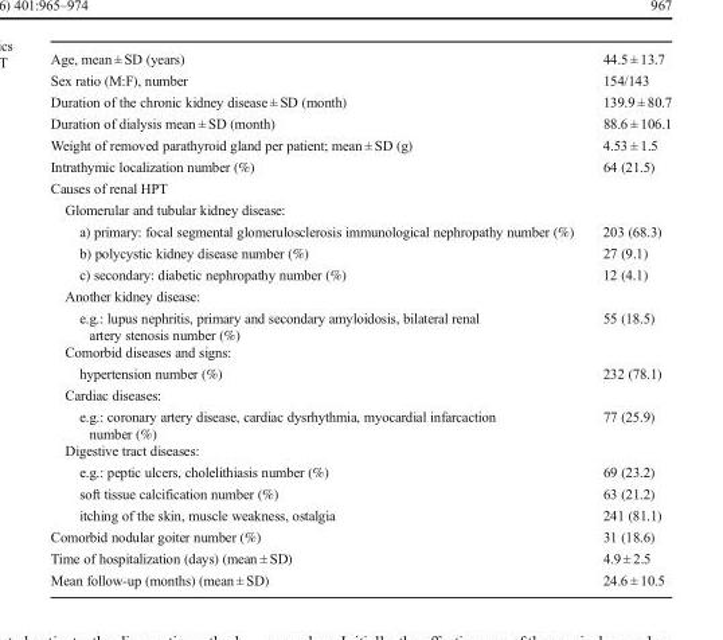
<table><tbody><tr><td>Age, mean ± SD (years)</td><td>44.5 ± 13.7</td></tr><tr><td>Sex ratio (M:F), number</td><td>154/143</td></tr><tr><td>Duration of the chronic kidney disease ± SD (month)</td><td>139.9 ± 80.7</td></tr><tr><td>Duration of dialysis mean ± SD (month)</td><td>88.6 ± 106.1</td></tr><tr><td>Weight of removed parathyroid gland per patient; mean ± SD (g)</td><td>4.53 ± 1.5</td></tr><tr><td>Intrathymic localization number (%)</td><td>64 (21.5)</td></tr><tr><td colspan="2">Causes of renal HPT</td></tr><tr><td colspan="2">Glomerular and tubular kidney disease:</td></tr><tr><td>a) primary: focal segmental glomerulosclerosis immunological nephropathy number (%)</td><td>203 (68.3)</td></tr><tr><td>b) polycystic kidney disease number (%)</td><td>27 (9.1)</td></tr><tr><td>c) secondary: diabetic nephropathy number (%)</td><td>12 (4.1)</td></tr><tr><td colspan="2">Another kidney disease:</td></tr><tr><td>e.g.: lupus nephritis, primary and secondary amyloidosis, bilateral renal artery stenosis number (%)</td><td>55 (18.5)</td></tr><tr><td colspan="2">Comorbid diseases and signs:</td></tr><tr><td>hypertension number (%)</td><td>232 (78.1)</td></tr><tr><td colspan="2">Cardiac diseases:</td></tr><tr><td>e.g.: coronary artery disease, cardiac dysrhythmia, myocardial infarcaction number (%)</td><td>77 (25.9)</td></tr><tr><td colspan="2">Digestive tract diseases:</td></tr><tr><td>e.g.: peptic ulcers, cholelithiasis number (%)</td><td>69 (23.2)</td></tr><tr><td>soft tissue calcification number (%)</td><td>63 (21.2)</td></tr><tr><td>itching of the skin, muscle weakness, ostalgia</td><td>241 (81.1)</td></tr><tr><td>Comorbid nodular goiter number (%)</td><td>31 (18.6)</td></tr><tr><td>Time of hospitalization (days) (mean ± SD)</td><td>4.9 ± 2.5</td></tr><tr><td>Mean follow-up (months) (mean ± SD)</td><td>24.6 ± 10.5</td></tr></tbody></table>